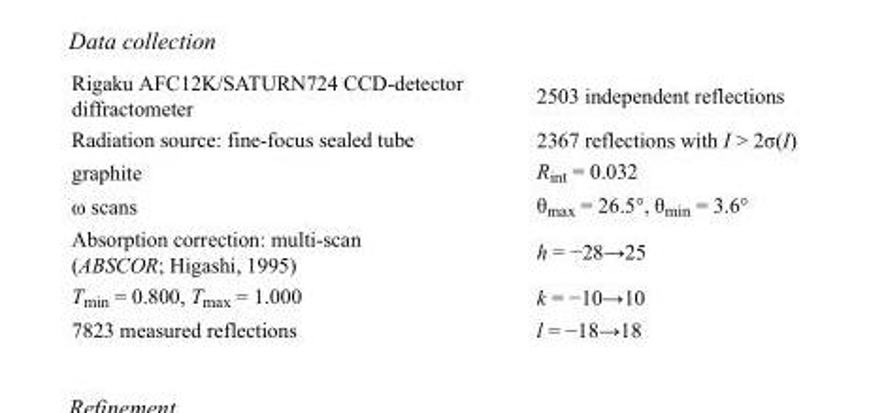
<table><tbody><tr><td>Rigaku AFC12K/SATURN724 CCD-detector diffractometer</td><td>2503 independent reflections</td></tr><tr><td>Radiation source: fine-focus sealed tube</td><td>2367 reflections with I &gt; 2σ(I)</td></tr><tr><td>graphite</td><td>R<sub>int</sub> = 0.032</td></tr><tr><td>ω scans</td><td>θ<sub>max</sub> = 26.5°, θ<sub>min</sub> = 3.6°</td></tr><tr><td>Absorption correction: multi-scan (ABSCOR; Higashi, 1995)</td><td>h = −28→25</td></tr><tr><td>T<sub>min</sub> = 0.800, T<sub>max</sub> = 1.000</td><td>k = −10→10</td></tr><tr><td>7823 measured reflections</td><td>l = −18→18</td></tr></tbody></table>